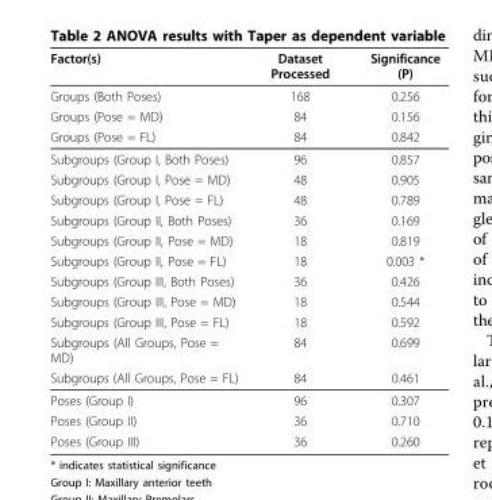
<table><thead><tr><td>Factor(s)</td><td>Dataset Processed</td><td>Significance (P)</td></tr></thead><tbody><tr><td>Groups (Both Poses)</td><td>168</td><td>0.256</td></tr><tr><td>Groups (Pose = MD)</td><td>84</td><td>0.156</td></tr><tr><td>Groups (Pose = FL)</td><td>84</td><td>0.842</td></tr><tr><td>Subgroups (Group I, Both Poses)</td><td>96</td><td>0.857</td></tr><tr><td>Subgroups (Group I, Pose = MD)</td><td>48</td><td>0.905</td></tr><tr><td>Subgroups (Group I, Pose = FL)</td><td>48</td><td>0.789</td></tr><tr><td>Subgroups (Group II, Both Poses)</td><td>36</td><td>0.169</td></tr><tr><td>Subgroups (Group II, Pose = MD)</td><td>18</td><td>0.819</td></tr><tr><td>Subgroups (Group II, Pose = FL)</td><td>18</td><td>0.003 *</td></tr><tr><td>Subgroups (Group III, Both Poses)</td><td>36</td><td>0.426</td></tr><tr><td>Subgroups (Group III, Pose = MD)</td><td>18</td><td>0.544</td></tr><tr><td>Subgroups (Group III, Pose = FL)</td><td>18</td><td>0.592</td></tr><tr><td>Subgroups (All Groups, Pose = MD)</td><td>84</td><td>0.699</td></tr><tr><td>Subgroups (All Groups, Pose = FL)</td><td>84</td><td>0.461</td></tr><tr><td>Poses (Group I)</td><td>96</td><td>0.307</td></tr><tr><td>Poses (Group II)</td><td>36</td><td>0.710</td></tr><tr><td>Poses (Group III)</td><td>36</td><td>0.260</td></tr></tbody></table>